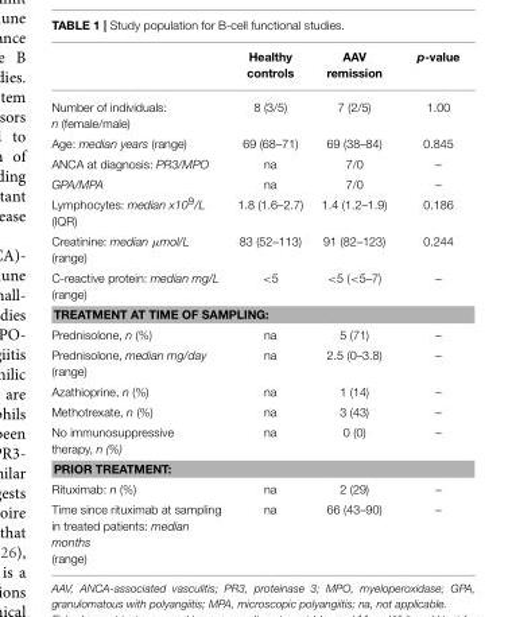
<table><thead><tr><td></td><td>Healthy controls</td><td>AAV remission</td><td>p-value</td></tr></thead><tbody><tr><td>Number of individuals: n (female/male)</td><td>8 (3/5)</td><td>7 (2/5)</td><td>1.00</td></tr><tr><td>Age: median years (range)</td><td>69 (68–71)</td><td>69 (38–84)</td><td>0.845</td></tr><tr><td>ANCA at diagnosis: PR3/MPO</td><td>na</td><td>7/0</td><td>–</td></tr><tr><td>GPA/MPA</td><td>na</td><td>7/0</td><td>–</td></tr><tr><td>Lymphocytes: median x10<sup>9</sup>/L (IQR)</td><td>1.8 (1.6–2.7)</td><td>1.4 (1.2–1.9)</td><td>0.186</td></tr><tr><td>Creatinine: median µmol/L (range)</td><td>83 (52–113)</td><td>91 (82–123)</td><td>0.244</td></tr><tr><td>C-reactive protein: median mg/L (range)</td><td>&lt;5</td><td>&lt;5 (&lt;5–7)</td><td>–</td></tr><tr><td colspan="4">TREATMENT AT TIME OF SAMPLING:</td></tr><tr><td>Prednisolone, n (%)</td><td>na</td><td>5 (71)</td><td>–</td></tr><tr><td>Prednisolone, median mg/day (range)</td><td>na</td><td>2.5 (0–3.8)</td><td>–</td></tr><tr><td>Azathioprine, n (%)</td><td>na</td><td>1 (14)</td><td>–</td></tr><tr><td>Methotrexate, n (%)</td><td>na</td><td>3 (43)</td><td>–</td></tr><tr><td>No immunosuppressive therapy, n (%)</td><td>na</td><td>0 (0)</td><td>–</td></tr><tr><td colspan="4">PRIOR TREATMENT:</td></tr><tr><td>Rituximab: n (%)</td><td>na</td><td>2 (29)</td><td>–</td></tr><tr><td>Time since rituximab at sampling in treated patients: median months (range)</td><td>na</td><td>66 (43–90)</td><td>–</td></tr></tbody></table>